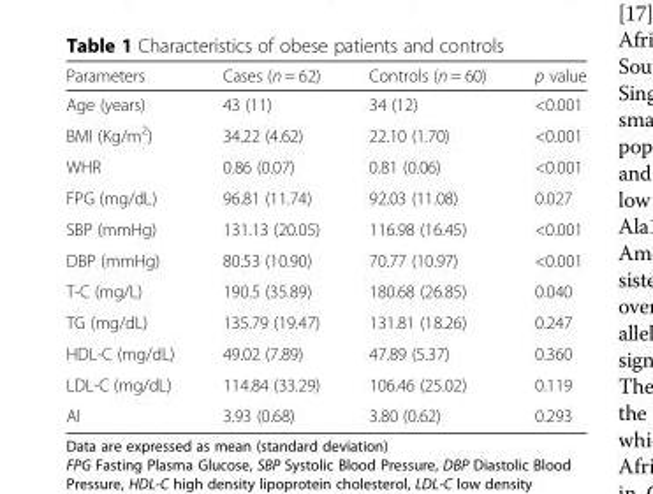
<table><thead><tr><td>Parameters</td><td>Cases (n = 62)</td><td>Controls (n = 60)</td><td>p value</td></tr></thead><tbody><tr><td>Age (years)</td><td>43 (11)</td><td>34 (12)</td><td>&lt;0.001</td></tr><tr><td>BMI (Kg/m<sup>2</sup>)</td><td>34.22 (4.62)</td><td>22.10 (1.70)</td><td>&lt;0.001</td></tr><tr><td>WHR</td><td>0.86 (0.07)</td><td>0.81 (0.06)</td><td>&lt;0.001</td></tr><tr><td>FPG (mg/dL)</td><td>96.81 (11.74)</td><td>92.03 (11.08)</td><td>0.027</td></tr><tr><td>SBP (mmHg)</td><td>131.13 (20.05)</td><td>116.98 (16.45)</td><td>&lt;0.001</td></tr><tr><td>DBP (mmHg)</td><td>80.53 (10.90)</td><td>70.77 (10.97)</td><td>&lt;0.001</td></tr><tr><td>T-C (mg/L)</td><td>190.5 (35.89)</td><td>180.68 (26.85)</td><td>0.040</td></tr><tr><td>TG (mg/dL)</td><td>135.79 (19.47)</td><td>131.81 (18.26)</td><td>0.247</td></tr><tr><td>HDL-C (mg/dL)</td><td>49.02 (7.89)</td><td>47.89 (5.37)</td><td>0.360</td></tr><tr><td>LDL-C (mg/dL)</td><td>114.84 (33.29)</td><td>106.46 (25.02)</td><td>0.119</td></tr><tr><td>AI</td><td>3.93 (0.68)</td><td>3.80 (0.62)</td><td>0.293</td></tr></tbody></table>